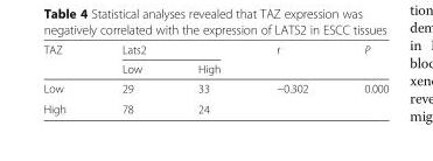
<table><thead><tr><td rowspan="2">TAZ</td><td colspan="2">Lats2</td><td rowspan="2">r</td><td rowspan="2">P</td></tr><tr><td>Low</td><td>High</td></tr></thead><tbody><tr><td>Low</td><td>29</td><td>33</td><td rowspan="2">−0.302</td><td rowspan="2">0.000</td></tr><tr><td>High</td><td>78</td><td>24</td></tr></tbody></table>